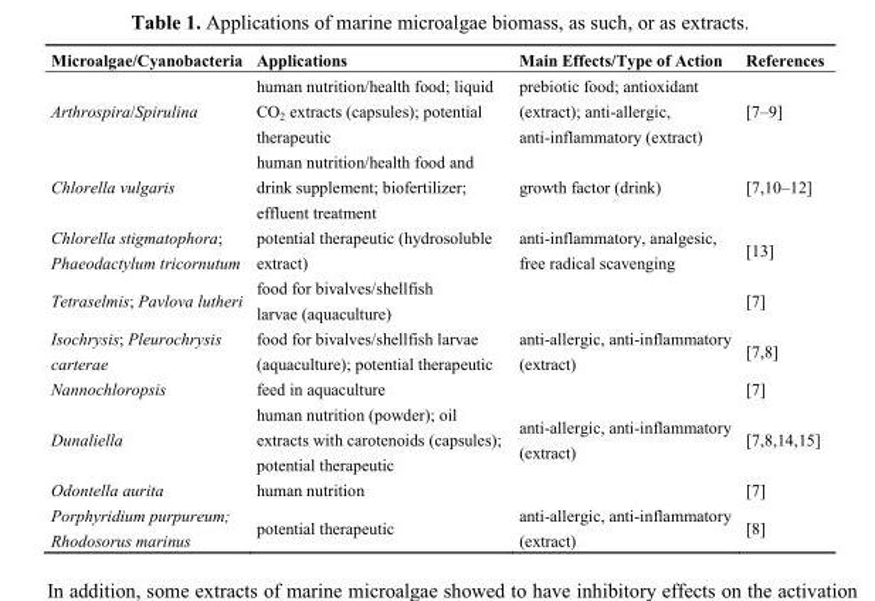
<table><thead><tr><td>Microalgae/Cyanobacteria</td><td>Applications</td><td>Main Effects/Type of Action</td><td>References</td></tr></thead><tbody><tr><td>Arthrospira/Spirulina</td><td>human nutrition/health food; liquid CO<sub>2</sub> extracts (capsules); potential therapeutic</td><td>prebiotic food; antioxidant (extract); anti-allergic, anti-inflammatory (extract)</td><td>[7–9]</td></tr><tr><td>Chlorella vulgaris</td><td>human nutrition/health food and drink supplement; biofertilizer; effluent treatment</td><td>growth factor (drink)</td><td>[7,10–12]</td></tr><tr><td>Chlorella stigmatophora; Phaeodactylum tricornutum</td><td>potential therapeutic (hydrosoluble extract)</td><td>anti-inflammatory, analgesic, free radical scavenging</td><td>[13]</td></tr><tr><td rowspan="2">Tetraselmis; Pavlova lutheri</td><td colspan="2">food for bivalves/shellfish</td><td rowspan="2">[7]</td></tr><tr><td colspan="2">larvae (aquaculture)</td></tr><tr><td>Isochrysis; Pleurochrysis carterae</td><td>food for bivalves/shellfish larvae (aquaculture); potential therapeutic</td><td>anti-allergic, anti-inflammatory (extract)</td><td>[7,8]</td></tr><tr><td>Nannochloropsis</td><td>feed in aquaculture</td><td></td><td>[7]</td></tr><tr><td>Dunaliella</td><td>human nutrition (powder); oil extracts with carotenoids (capsules); potential therapeutic</td><td>anti-allergic, anti-inflammatory (extract)</td><td>[7,8,14,15]</td></tr><tr><td>Odontella aurita</td><td>human nutrition</td><td></td><td>[7]</td></tr><tr><td>Porphyridium purpureum; Rhodosorus marinus</td><td>potential therapeutic</td><td>anti-allergic, anti-inflammatory (extract)</td><td>[8]</td></tr></tbody></table>